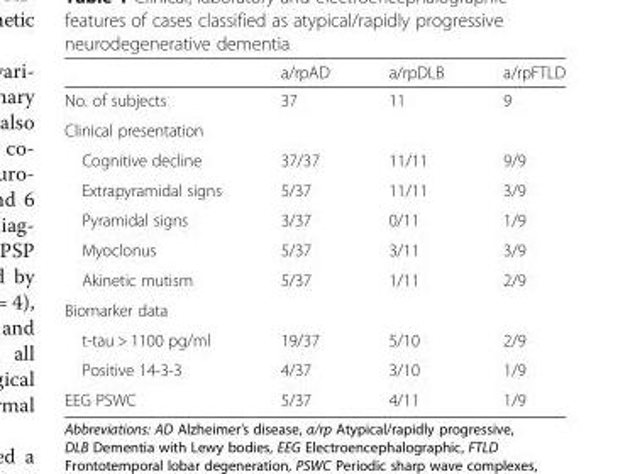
<table><thead><tr><td></td><td>a/rpAD</td><td>a/rpDLB</td><td>a/rpFTLD</td></tr></thead><tbody><tr><td>No. of subjects</td><td>37</td><td>11</td><td>9</td></tr><tr><td colspan="4">Clinical presentation</td></tr><tr><td>Cognitive decline</td><td>37/37</td><td>11/11</td><td>9/9</td></tr><tr><td>Extrapyramidal signs</td><td>5/37</td><td>11/11</td><td>3/9</td></tr><tr><td>Pyramidal signs</td><td>3/37</td><td>0/11</td><td>1/9</td></tr><tr><td>Myoclonus</td><td>5/37</td><td>3/11</td><td>3/9</td></tr><tr><td>Akinetic mutism</td><td>5/37</td><td>1/11</td><td>2/9</td></tr><tr><td colspan="4">Biomarker data</td></tr><tr><td>t-tau &gt; 1100 pg/ml</td><td>19/37</td><td>5/10</td><td>2/9</td></tr><tr><td>Positive 14-3-3</td><td>4/37</td><td>3/10</td><td>1/9</td></tr><tr><td>EEG PSWC</td><td>5/37</td><td>4/11</td><td>1/9</td></tr></tbody></table>